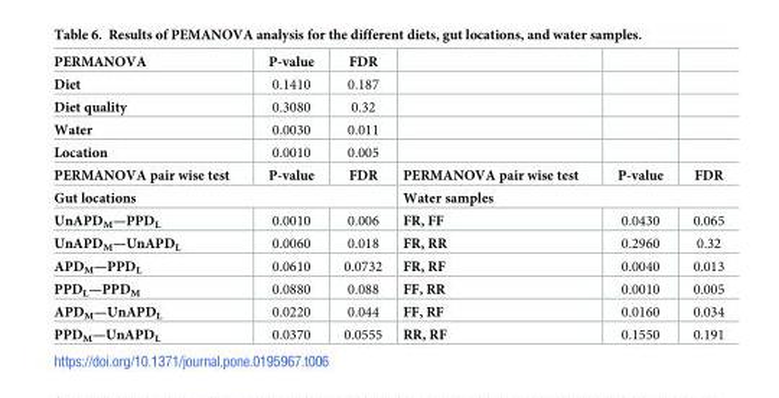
<table><tbody><tr><td>PERMANOVA</td><td>P-value</td><td>FDR</td><td></td><td></td><td></td></tr><tr><td>Diet</td><td>0.1410</td><td>0.187</td><td></td><td></td><td></td></tr><tr><td>Diet quality</td><td>0.3080</td><td>0.32</td><td></td><td></td><td></td></tr><tr><td>Water</td><td>0.0030</td><td>0.011</td><td></td><td></td><td></td></tr><tr><td>Location</td><td>0.0010</td><td>0.005</td><td></td><td></td><td></td></tr><tr><td>PERMANOVA pair wise test</td><td>P-value</td><td>FDR</td><td>PERMANOVA pair wise test</td><td>P-value</td><td>FDR</td></tr><tr><td colspan="3">Gut locations</td><td colspan="3">Water samples</td></tr><tr><td>UnAPD<sub>M</sub>—PPD<sub>L</sub></td><td>0.0010</td><td>0.006</td><td>FR, FF</td><td>0.0430</td><td>0.065</td></tr><tr><td>UnAPD<sub>M</sub>—UnAPD<sub>L</sub></td><td>0.0060</td><td>0.018</td><td>FR, RR</td><td>0.2960</td><td>0.32</td></tr><tr><td>APD<sub>M</sub>—PPD<sub>L</sub></td><td>0.0610</td><td>0.0732</td><td>FR, RF</td><td>0.0040</td><td>0.013</td></tr><tr><td>PPD<sub>L</sub>—PPD<sub>M</sub></td><td>0.0880</td><td>0.088</td><td>FF, RR</td><td>0.0010</td><td>0.005</td></tr><tr><td>APD<sub>M</sub>—UnAPD<sub>L</sub></td><td>0.0220</td><td>0.044</td><td>FF, RF</td><td>0.0160</td><td>0.034</td></tr><tr><td>PPD<sub>M</sub>—UnAPD<sub>L</sub></td><td>0.0370</td><td>0.0555</td><td>RR, RF</td><td>0.1550</td><td>0.191</td></tr></tbody></table>